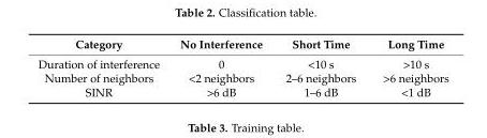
<table><thead><tr><td>Category</td><td>No Interference</td><td>Short Time</td><td>Long Time</td></tr></thead><tbody><tr><td>Duration of interference</td><td>0</td><td>&lt;10 s</td><td>&gt;10 s</td></tr><tr><td>Number of neighbors</td><td>&lt;2 neighbors</td><td>2–6 neighbors</td><td>&gt;6 neighbors</td></tr><tr><td>SINR</td><td>&gt;6 dB</td><td>1–6 dB</td><td>&lt;1 dB</td></tr></tbody></table>